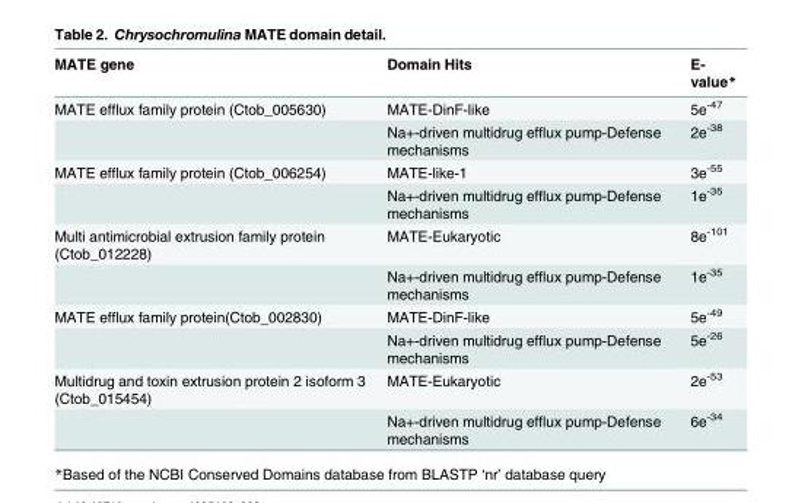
<table><thead><tr><td>MATE gene</td><td>Domain Hits</td><td>E- value*</td></tr></thead><tbody><tr><td rowspan="2">MATE efflux family protein (Ctob_005630)</td><td>MATE-DinF-like</td><td>5e<sup>-47</sup></td></tr><tr><td>Na+-driven multidrug efflux pump-Defense mechanisms</td><td>2e<sup>-38</sup></td></tr><tr><td rowspan="2">MATE efflux family protein (Ctob_006254)</td><td>MATE-like-1</td><td>3e<sup>-55</sup></td></tr><tr><td>Na+-driven multidrug efflux pump-Defense mechanisms</td><td>1e<sup>-35</sup></td></tr><tr><td rowspan="2">Multi antimicrobial extrusion family protein (Ctob_012228)</td><td>MATE-Eukaryotic</td><td>8e<sup>-101</sup></td></tr><tr><td>Na+-driven multidrug efflux pump-Defense mechanisms</td><td>1e<sup>-35</sup></td></tr><tr><td rowspan="2">MATE efflux family protein(Ctob_002830)</td><td>MATE-DinF-like</td><td>5e<sup>-49</sup></td></tr><tr><td>Na+-driven multidrug efflux pump-Defense mechanisms</td><td>5e<sup>-26</sup></td></tr><tr><td rowspan="2">Multidrug and toxin extrusion protein 2 isoform 3 (Ctob_015454)</td><td>MATE-Eukaryotic</td><td>2e<sup>-53</sup></td></tr><tr><td>Na+-driven multidrug efflux pump-Defense mechanisms</td><td>6e<sup>-34</sup></td></tr></tbody></table>